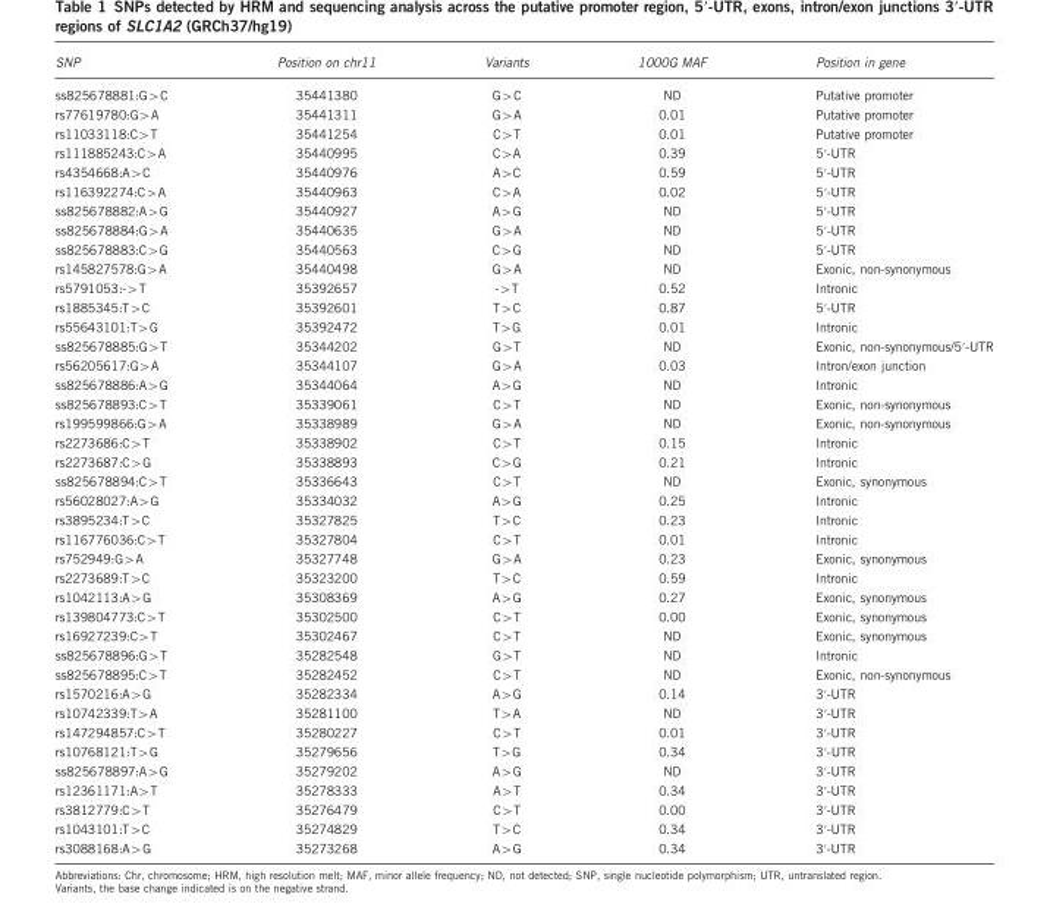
<table><thead><tr><td>SNP</td><td>Position on chr11</td><td>Variants</td><td>1000G MAF</td><td>Position in gene</td></tr></thead><tbody><tr><td>ss825678881:G&gt;C</td><td>35441380</td><td>G&gt;C</td><td>ND</td><td>Putative promoter</td></tr><tr><td>rs77619780:G&gt;A</td><td>35441311</td><td>G&gt;A</td><td>0.01</td><td>Putative promoter</td></tr><tr><td>rs11033118:C&gt;T</td><td>35441254</td><td>C&gt;T</td><td>0.01</td><td>Putative promoter</td></tr><tr><td>rs111885243:C&gt;A</td><td>35440995</td><td>C&gt;A</td><td>0.39</td><td>5′-UTR</td></tr><tr><td>rs4354668:A&gt;C</td><td>35440976</td><td>A&gt;C</td><td>0.59</td><td>5′-UTR</td></tr><tr><td>rs116392274:C&gt;A</td><td>35440963</td><td>C&gt;A</td><td>0.02</td><td>5′-UTR</td></tr><tr><td>ss825678882:A&gt;G</td><td>35440927</td><td>A&gt;G</td><td>ND</td><td>5′-UTR</td></tr><tr><td>ss825678884:G&gt;A</td><td>35440635</td><td>G&gt;A</td><td>ND</td><td>5′-UTR</td></tr><tr><td>ss825678883:C&gt;G</td><td>35440563</td><td>C&gt;G</td><td>ND</td><td>5′-UTR</td></tr><tr><td>rs145827578:G&gt;A</td><td>35440498</td><td>G&gt;A</td><td>ND</td><td>Exonic, non-synonymous</td></tr><tr><td>rs5791053:-&gt;T</td><td>35392657</td><td>-&gt;T</td><td>0.52</td><td>Intronic</td></tr><tr><td>rs1885345:T&gt;C</td><td>35392601</td><td>T&gt;C</td><td>0.87</td><td>5′-UTR</td></tr><tr><td>rs55643101:T&gt;G</td><td>35392472</td><td>T&gt;G</td><td>0.01</td><td>Intronic</td></tr><tr><td>ss825678885:G&gt;T</td><td>35344202</td><td>G&gt;T</td><td>ND</td><td>Exonic, non-synonymous/5′-UTR</td></tr><tr><td>rs56205617:G&gt;A</td><td>35344107</td><td>G&gt;A</td><td>0.03</td><td>Intron/exon junction</td></tr><tr><td>ss825678886:A&gt;G</td><td>35344064</td><td>A&gt;G</td><td>ND</td><td>Intronic</td></tr><tr><td>ss825678893:C&gt;T</td><td>35339061</td><td>C&gt;T</td><td>ND</td><td>Exonic, non-synonymous</td></tr><tr><td>rs199599866:G&gt;A</td><td>35338989</td><td>G&gt;A</td><td>ND</td><td>Exonic, non-synonymous</td></tr><tr><td>rs2273686:C&gt;T</td><td>35338902</td><td>C&gt;T</td><td>0.15</td><td>Intronic</td></tr><tr><td>rs2273687:C&gt;G</td><td>35338893</td><td>C&gt;G</td><td>0.21</td><td>Intronic</td></tr><tr><td>ss825678894:C&gt;T</td><td>35336643</td><td>C&gt;T</td><td>ND</td><td>Exonic, synonymous</td></tr><tr><td>rs56028027:A&gt;G</td><td>35334032</td><td>A&gt;G</td><td>0.25</td><td>Intronic</td></tr><tr><td>rs3895234:T&gt;C</td><td>35327825</td><td>T&gt;C</td><td>0.23</td><td>Intronic</td></tr><tr><td>rs116776036:C&gt;T</td><td>35327804</td><td>C&gt;T</td><td>0.01</td><td>Intronic</td></tr><tr><td>rs752949:G&gt;A</td><td>35327748</td><td>G&gt;A</td><td>0.23</td><td>Exonic, synonymous</td></tr><tr><td>rs2273689:T&gt;C</td><td>35323200</td><td>T&gt;C</td><td>0.59</td><td>Intronic</td></tr><tr><td>rs1042113:A&gt;G</td><td>35308369</td><td>A&gt;G</td><td>0.27</td><td>Exonic, synonymous</td></tr><tr><td>rs139804773:C&gt;T</td><td>35302500</td><td>C&gt;T</td><td>0.00</td><td>Exonic, synonymous</td></tr><tr><td>rs16927239:C&gt;T</td><td>35302467</td><td>C&gt;T</td><td>ND</td><td>Exonic, synonymous</td></tr><tr><td>ss825678896:G&gt;T</td><td>35282548</td><td>G&gt;T</td><td>ND</td><td>Intronic</td></tr><tr><td>ss825678895:C&gt;T</td><td>35282452</td><td>C&gt;T</td><td>ND</td><td>Exonic, non-synonymous</td></tr><tr><td>rs1570216:A&gt;G</td><td>35282334</td><td>A&gt;G</td><td>0.14</td><td>3′-UTR</td></tr><tr><td>rs10742339:T&gt;A</td><td>35281100</td><td>T&gt;A</td><td>ND</td><td>3′-UTR</td></tr><tr><td>rs147294857:C&gt;T</td><td>35280227</td><td>C&gt;T</td><td>0.01</td><td>3′-UTR</td></tr><tr><td>rs10768121:T&gt;G</td><td>35279656</td><td>T&gt;G</td><td>0.34</td><td>3′-UTR</td></tr><tr><td>ss825678897:A&gt;G</td><td>35279202</td><td>A&gt;G</td><td>ND</td><td>3′-UTR</td></tr><tr><td>rs12361171:A&gt;T</td><td>35278333</td><td>A&gt;T</td><td>0.34</td><td>3′-UTR</td></tr><tr><td>rs3812779:C&gt;T</td><td>35276479</td><td>C&gt;T</td><td>0.00</td><td>3′-UTR</td></tr><tr><td>rs1043101:T&gt;C</td><td>35274829</td><td>T&gt;C</td><td>0.34</td><td>3′-UTR</td></tr><tr><td>rs3088168:A&gt;G</td><td>35273268</td><td>A&gt;G</td><td>0.34</td><td>3′-UTR</td></tr></tbody></table>